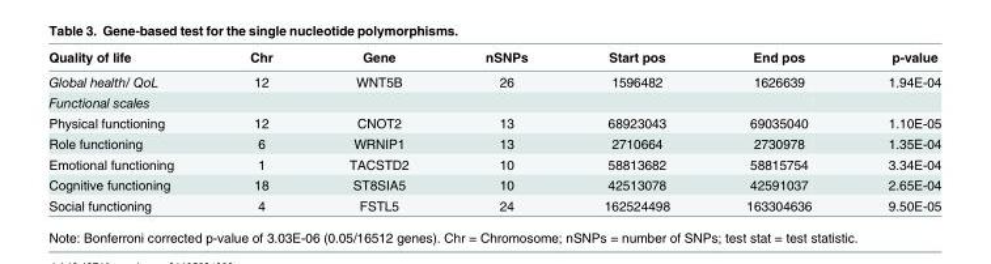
<table><thead><tr><td>Quality of life</td><td>Chr</td><td>Gene</td><td>nSNPs</td><td>Start pos</td><td>End pos</td><td>p-value</td></tr></thead><tbody><tr><td>Global health/ QoL</td><td>12</td><td>WNT5B</td><td>26</td><td>1596482</td><td>1626639</td><td>1.94E-04</td></tr><tr><td colspan="7">Functional scales</td></tr><tr><td>Physical functioning</td><td>12</td><td>CNOT2</td><td>13</td><td>68923043</td><td>69035040</td><td>1.10E-05</td></tr><tr><td>Role functioning</td><td>6</td><td>WRNIP1</td><td>13</td><td>2710664</td><td>2730978</td><td>1.35E-04</td></tr><tr><td>Emotional functioning</td><td>1</td><td>TACSTD2</td><td>10</td><td>58813682</td><td>58815754</td><td>3.34E-04</td></tr><tr><td>Cognitive functioning</td><td>18</td><td>ST8SIA5</td><td>10</td><td>42513078</td><td>42591037</td><td>2.65E-04</td></tr><tr><td>Social functioning</td><td>4</td><td>FSTL5</td><td>24</td><td>162524498</td><td>163304636</td><td>9.50E-05</td></tr></tbody></table>